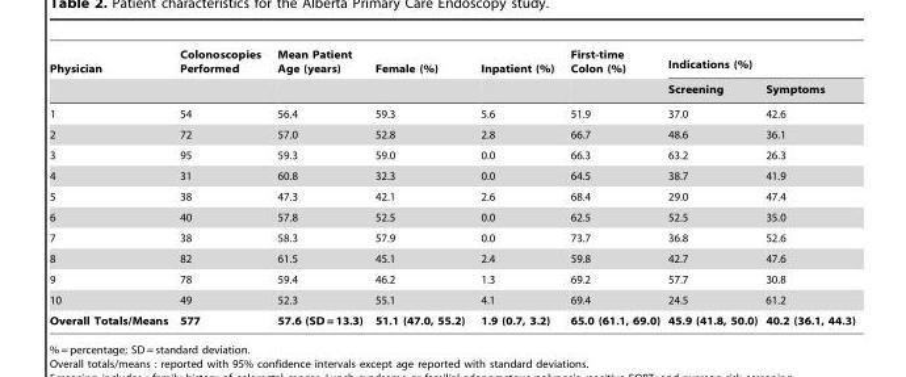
<table><thead><tr><td rowspan="2">Physician</td><td rowspan="2">Colonoscopies Performed</td><td rowspan="2">Mean Patient Age (years)</td><td rowspan="2">Female (%)</td><td rowspan="2">Inpatient (%)</td><td rowspan="2">First-time Colon (%)</td><td colspan="2">Indications (%)</td></tr><tr><td>Screening</td><td>Symptoms</td></tr></thead><tbody><tr><td>1</td><td>54</td><td>56.4</td><td>59.3</td><td>5.6</td><td>51.9</td><td>37.0</td><td>42.6</td></tr><tr><td>2</td><td>72</td><td>57.0</td><td>52.8</td><td>2.8</td><td>66.7</td><td>48.6</td><td>36.1</td></tr><tr><td>3</td><td>95</td><td>59.3</td><td>59.0</td><td>0.0</td><td>66.3</td><td>63.2</td><td>26.3</td></tr><tr><td>4</td><td>31</td><td>60.8</td><td>32.3</td><td>0.0</td><td>64.5</td><td>38.7</td><td>41.9</td></tr><tr><td>5</td><td>38</td><td>47.3</td><td>42.1</td><td>2.6</td><td>68.4</td><td>29.0</td><td>47.4</td></tr><tr><td>6</td><td>40</td><td>57.8</td><td>52.5</td><td>0.0</td><td>62.5</td><td>52.5</td><td>35.0</td></tr><tr><td>7</td><td>38</td><td>58.3</td><td>57.9</td><td>0.0</td><td>73.7</td><td>36.8</td><td>52.6</td></tr><tr><td>8</td><td>82</td><td>61.5</td><td>45.1</td><td>2.4</td><td>59.8</td><td>42.7</td><td>47.6</td></tr><tr><td>9</td><td>78</td><td>59.4</td><td>46.2</td><td>1.3</td><td>69.2</td><td>57.7</td><td>30.8</td></tr><tr><td>10</td><td>49</td><td>52.3</td><td>55.1</td><td>4.1</td><td>69.4</td><td>24.5</td><td>61.2</td></tr><tr><td>Overall Totals/Means</td><td>577</td><td>57.6 (SD = 13.3)</td><td>51.1 (47.0, 55.2)</td><td>1.9 (0.7, 3.2)</td><td>65.0 (61.1, 69.0)</td><td>45.9 (41.8, 50.0)</td><td>40.2 (36.1, 44.3)</td></tr></tbody></table>